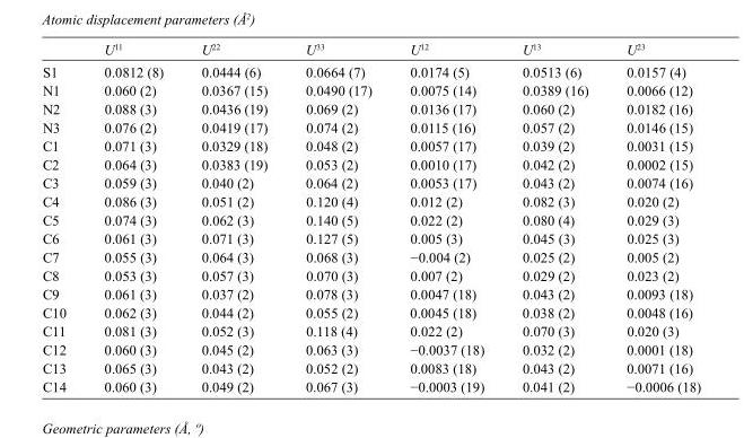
<table><thead><tr><td></td><td>U<sup>11</sup></td><td>U<sup>22</sup></td><td>U<sup>33</sup></td><td>U<sup>12</sup></td><td>U<sup>13</sup></td><td>U<sup>23</sup></td></tr></thead><tbody><tr><td>S1</td><td>0.0812 (8)</td><td>0.0444 (6)</td><td>0.0664 (7)</td><td>0.0174 (5)</td><td>0.0513 (6)</td><td>0.0157 (4)</td></tr><tr><td>N1</td><td>0.060 (2)</td><td>0.0367 (15)</td><td>0.0490 (17)</td><td>0.0075 (14)</td><td>0.0389 (16)</td><td>0.0066 (12)</td></tr><tr><td>N2</td><td>0.088 (3)</td><td>0.0436 (19)</td><td>0.069 (2)</td><td>0.0136 (17)</td><td>0.060 (2)</td><td>0.0182 (16)</td></tr><tr><td>N3</td><td>0.076 (2)</td><td>0.0419 (17)</td><td>0.074 (2)</td><td>0.0115 (16)</td><td>0.057 (2)</td><td>0.0146 (15)</td></tr><tr><td>C1</td><td>0.071 (3)</td><td>0.0329 (18)</td><td>0.048 (2)</td><td>0.0057 (17)</td><td>0.039 (2)</td><td>0.0031 (15)</td></tr><tr><td>C2</td><td>0.064 (3)</td><td>0.0383 (19)</td><td>0.053 (2)</td><td>0.0010 (17)</td><td>0.042 (2)</td><td>0.0002 (15)</td></tr><tr><td>C3</td><td>0.059 (3)</td><td>0.040 (2)</td><td>0.064 (2)</td><td>0.0053 (17)</td><td>0.043 (2)</td><td>0.0074 (16)</td></tr><tr><td>C4</td><td>0.086 (3)</td><td>0.051 (2)</td><td>0.120 (4)</td><td>0.012 (2)</td><td>0.082 (3)</td><td>0.020 (2)</td></tr><tr><td>C5</td><td>0.074 (3)</td><td>0.062 (3)</td><td>0.140 (5)</td><td>0.022 (2)</td><td>0.080 (4)</td><td>0.029 (3)</td></tr><tr><td>C6</td><td>0.061 (3)</td><td>0.071 (3)</td><td>0.127 (5)</td><td>0.005 (3)</td><td>0.045 (3)</td><td>0.025 (3)</td></tr><tr><td>C7</td><td>0.055 (3)</td><td>0.064 (3)</td><td>0.068 (3)</td><td>−0.004 (2)</td><td>0.025 (2)</td><td>0.005 (2)</td></tr><tr><td>C8</td><td>0.053 (3)</td><td>0.057 (3)</td><td>0.070 (3)</td><td>0.007 (2)</td><td>0.029 (2)</td><td>0.023 (2)</td></tr><tr><td>C9</td><td>0.061 (3)</td><td>0.037 (2)</td><td>0.078 (3)</td><td>0.0047 (18)</td><td>0.043 (2)</td><td>0.0093 (18)</td></tr><tr><td>C10</td><td>0.062 (3)</td><td>0.044 (2)</td><td>0.055 (2)</td><td>0.0045 (18)</td><td>0.038 (2)</td><td>0.0048 (16)</td></tr><tr><td>C11</td><td>0.081 (3)</td><td>0.052 (3)</td><td>0.118 (4)</td><td>0.022 (2)</td><td>0.070 (3)</td><td>0.020 (3)</td></tr><tr><td>C12</td><td>0.060 (3)</td><td>0.045 (2)</td><td>0.063 (3)</td><td>−0.0037 (18)</td><td>0.032 (2)</td><td>0.0001 (18)</td></tr><tr><td>C13</td><td>0.065 (3)</td><td>0.043 (2)</td><td>0.052 (2)</td><td>0.0083 (18)</td><td>0.043 (2)</td><td>0.0071 (16)</td></tr><tr><td>C14</td><td>0.060 (3)</td><td>0.049 (2)</td><td>0.067 (3)</td><td>−0.0003 (19)</td><td>0.041 (2)</td><td>−0.0006 (18)</td></tr></tbody></table>